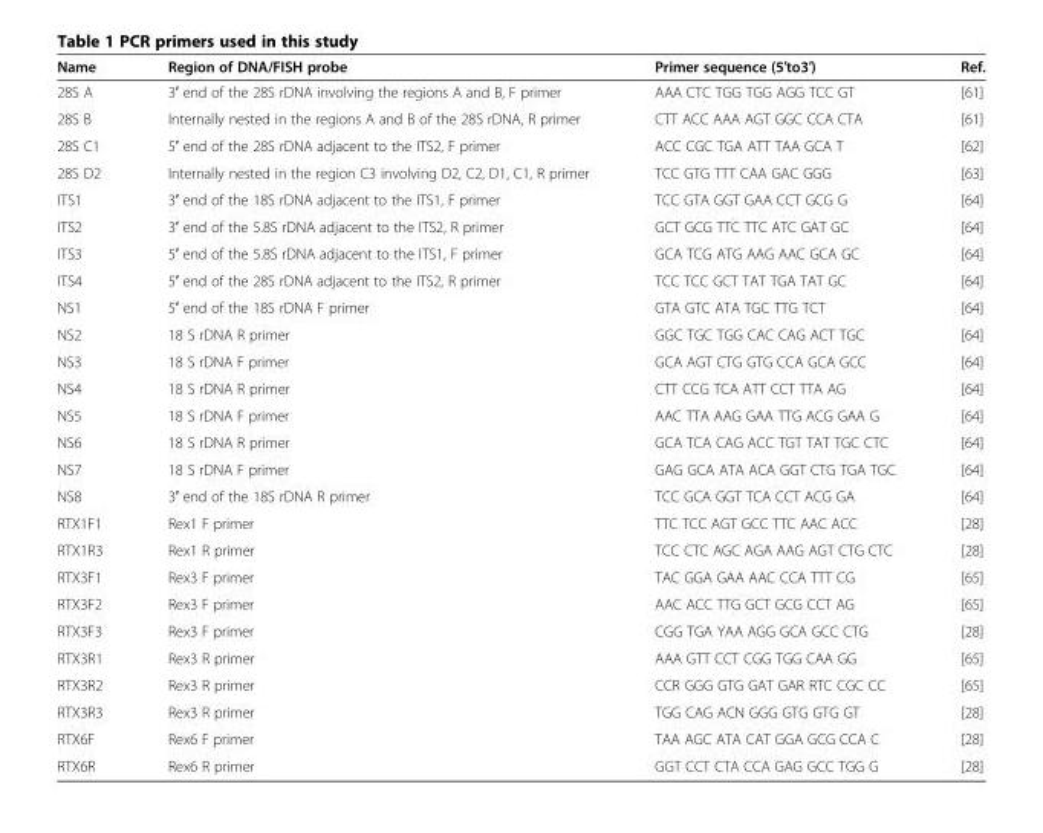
<table><thead><tr><td>Name</td><td>Region of DNA/FISH probe</td><td>Primer sequence (5′to3′)</td><td>Ref.</td></tr></thead><tbody><tr><td>28S A</td><td>3′ end of the 28S rDNA involving the regions A and B, F primer</td><td>AAA CTC TGG TGG AGG TCC GT</td><td>[61]</td></tr><tr><td>28S B</td><td>Internally nested in the regions A and B of the 28S rDNA, R primer</td><td>CTT ACC AAA AGT GGC CCA CTA</td><td>[61]</td></tr><tr><td>28S C1</td><td>5′ end of the 28S rDNA adjacent to the ITS2, F primer</td><td>ACC CGC TGA ATT TAA GCA T</td><td>[62]</td></tr><tr><td>28S D2</td><td>Internally nested in the region C3 involving D2, C2, D1, C1, R primer</td><td>TCC GTG TTT CAA GAC GGG</td><td>[63]</td></tr><tr><td>ITS1</td><td>3′ end of the 18S rDNA adjacent to the ITS1, F primer</td><td>TCC GTA GGT GAA CCT GCG G</td><td>[64]</td></tr><tr><td>ITS2</td><td>3′ end of the 5.8S rDNA adjacent to the ITS2, R primer</td><td>GCT GCG TTC TTC ATC GAT GC</td><td>[64]</td></tr><tr><td>ITS3</td><td>5′ end of the 5.8S rDNA adjacent to the ITS1, F primer</td><td>GCA TCG ATG AAG AAC GCA GC</td><td>[64]</td></tr><tr><td>ITS4</td><td>5′ end of the 28S rDNA adjacent to the ITS2, R primer</td><td>TCC TCC GCT TAT TGA TAT GC</td><td>[64]</td></tr><tr><td>NS1</td><td>5′ end of the 18S rDNA F primer</td><td>GTA GTC ATA TGC TTG TCT</td><td>[64]</td></tr><tr><td>NS2</td><td>18 S rDNA R primer</td><td>GGC TGC TGG CAC CAG ACT TGC</td><td>[64]</td></tr><tr><td>NS3</td><td>18 S rDNA F primer</td><td>GCA AGT CTG GTG CCA GCA GCC</td><td>[64]</td></tr><tr><td>NS4</td><td>18 S rDNA R primer</td><td>CTT CCG TCA ATT CCT TTA AG</td><td>[64]</td></tr><tr><td>NS5</td><td>18 S rDNA F primer</td><td>AAC TTA AAG GAA TTG ACG GAA G</td><td>[64]</td></tr><tr><td>NS6</td><td>18 S rDNA R primer</td><td>GCA TCA CAG ACC TGT TAT TGC CTC</td><td>[64]</td></tr><tr><td>NS7</td><td>18 S rDNA F primer</td><td>GAG GCA ATA ACA GGT CTG TGA TGC</td><td>[64]</td></tr><tr><td>NS8</td><td>3′ end of the 18S rDNA R primer</td><td>TCC GCA GGT TCA CCT ACG GA</td><td>[64]</td></tr><tr><td>RTX1F1</td><td>Rex1 F primer</td><td>TTC TCC AGT GCC TTC AAC ACC</td><td>[28]</td></tr><tr><td>RTX1R3</td><td>Rex1 R primer</td><td>TCC CTC AGC AGA AAG AGT CTG CTC</td><td>[28]</td></tr><tr><td>RTX3F1</td><td>Rex3 F primer</td><td>TAC GGA GAA AAC CCA TTT CG</td><td>[65]</td></tr><tr><td>RTX3F2</td><td>Rex3 F primer</td><td>AAC ACC TTG GCT GCG CCT AG</td><td>[65]</td></tr><tr><td>RTX3F3</td><td>Rex3 F primer</td><td>CGG TGA YAA AGG GCA GCC CTG</td><td>[28]</td></tr><tr><td>RTX3R1</td><td>Rex3 R primer</td><td>AAA GTT CCT CGG TGG CAA GG</td><td>[65]</td></tr><tr><td>RTX3R2</td><td>Rex3 R primer</td><td>CCR GGG GTG GAT GAR RTC CGC CC</td><td>[65]</td></tr><tr><td>RTX3R3</td><td>Rex3 R primer</td><td>TGG CAG ACN GGG GTG GTG GT</td><td>[28]</td></tr><tr><td>RTX6F</td><td>Rex6 F primer</td><td>TAA AGC ATA CAT GGA GCG CCA C</td><td>[28]</td></tr><tr><td>RTX6R</td><td>Rex6 R primer</td><td>GGT CCT CTA CCA GAG GCC TGG G</td><td>[28]</td></tr></tbody></table>